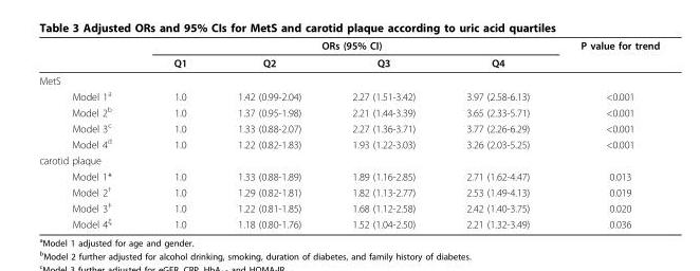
<table><thead><tr><td rowspan="2"></td><td colspan="4">ORs (95% CI)</td><td rowspan="2">P value for trend</td></tr><tr><td>Q1</td><td>Q2</td><td>Q3</td><td>Q4</td></tr></thead><tbody><tr><td colspan="6">MetS</td></tr><tr><td>Model 1<sup>a</sup></td><td>1.0</td><td>1.42 (0.99-2.04)</td><td>2.27 (1.51-3.42)</td><td>3.97 (2.58-6.13)</td><td>&lt;0.001</td></tr><tr><td>Model 2<sup>b</sup></td><td>1.0</td><td>1.37 (0.95-1.98)</td><td>2.21 (1.44-3.39)</td><td>3.65 (2.33-5.71)</td><td>&lt;0.001</td></tr><tr><td>Model 3<sup>c</sup></td><td>1.0</td><td>1.33 (0.88-2.07)</td><td>2.27 (1.36-3.71)</td><td>3.77 (2.26-6.29)</td><td>&lt;0.001</td></tr><tr><td>Model 4<sup>d</sup></td><td>1.0</td><td>1.22 (0.82-1.83)</td><td>1.93 (1.22-3.03)</td><td>3.26 (2.03-5.25)</td><td>&lt;0.001</td></tr><tr><td colspan="6">carotid plaque</td></tr><tr><td>Model 1*</td><td>1.0</td><td>1.33 (0.88-1.89)</td><td>1.89 (1.16-2.85)</td><td>2.71 (1.62-4.47)</td><td>0.013</td></tr><tr><td>Model 2<sup>†</sup></td><td>1.0</td><td>1.29 (0.82-1.81)</td><td>1.82 (1.13-2.77)</td><td>2.53 (1.49-4.13)</td><td>0.019</td></tr><tr><td>Model 3<sup>‡</sup></td><td>1.0</td><td>1.22 (0.81-1.85)</td><td>1.68 (1.12-2.58)</td><td>2.42 (1.40-3.75)</td><td>0.020</td></tr><tr><td>Model 4<sup>ξ</sup></td><td>1.0</td><td>1.18 (0.80-1.76)</td><td>1.52 (1.04-2.50)</td><td>2.21 (1.32-3.49)</td><td>0.036</td></tr></tbody></table>